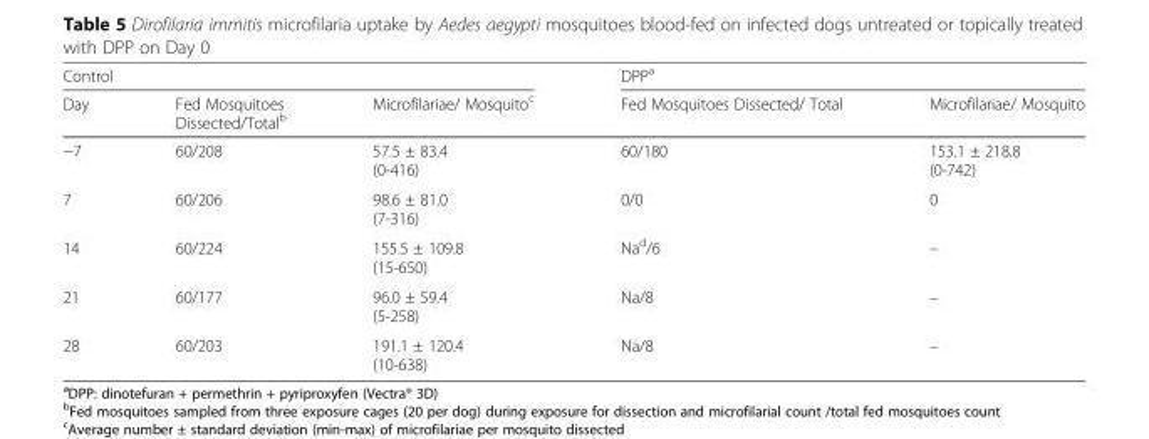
<table><thead><tr><td colspan="3">Control</td><td colspan="2">DPP<sup>a</sup></td></tr><tr><td>Day</td><td>Fed Mosquitoes Dissected/Total<sup>b</sup></td><td>Microfilariae/ Mosquito<sup>c</sup></td><td>Fed Mosquitoes Dissected/ Total</td><td>Microfilariae/ Mosquito</td></tr></thead><tbody><tr><td>−7</td><td>60/208</td><td>57.5 ± 83.4 (0-416)</td><td>60/180</td><td>153.1 ± 218.8 (0-742)</td></tr><tr><td>7</td><td>60/206</td><td>98.6 ± 81.0 (7-316)</td><td>0/0</td><td>0</td></tr><tr><td>14</td><td>60/224</td><td>155.5 ± 109.8 (15-650)</td><td>Na<sup>d</sup>/6</td><td>–</td></tr><tr><td>21</td><td>60/177</td><td>96.0 ± 59.4 (5-258)</td><td>Na/8</td><td>–</td></tr><tr><td>28</td><td>60/203</td><td>191.1 ± 120.4 (10-638)</td><td>Na/8</td><td>–</td></tr></tbody></table>